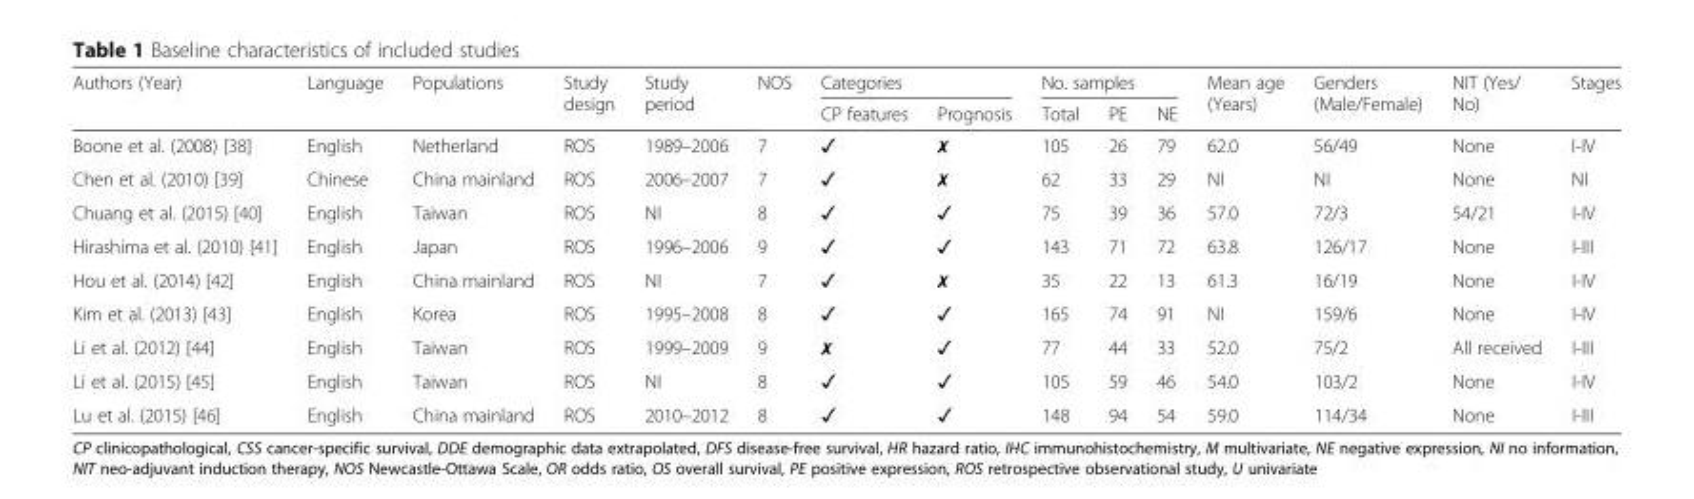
<table><thead><tr><td rowspan="2">Authors (Year)</td><td rowspan="2">Language</td><td rowspan="2">Populations</td><td rowspan="2">Study design</td><td rowspan="2">Study period</td><td rowspan="2">NOS</td><td colspan="2">Categories</td><td colspan="3">No. samples</td><td rowspan="2">Mean age (Years)</td><td rowspan="2">Genders (Male/Female)</td><td rowspan="2">NIT (Yes/ No)</td><td rowspan="2">Stages</td></tr><tr><td>CP features</td><td>Prognosis</td><td>Total</td><td>PE</td><td>NE</td></tr></thead><tbody><tr><td>Boone et al. (2008) [38]</td><td>English</td><td>Netherland</td><td>ROS</td><td>1989–2006</td><td>7</td><td>✓</td><td>✗</td><td>105</td><td>26</td><td>79</td><td>62.0</td><td>56/49</td><td>None</td><td>I-IV</td></tr><tr><td>Chen et al. (2010) [39]</td><td>Chinese</td><td>China mainland</td><td>ROS</td><td>2006–2007</td><td>7</td><td>✓</td><td>✗</td><td>62</td><td>33</td><td>29</td><td>NI</td><td>NI</td><td>None</td><td>NI</td></tr><tr><td>Chuang et al. (2015) [40]</td><td>English</td><td>Taiwan</td><td>ROS</td><td>NI</td><td>8</td><td>✓</td><td>✓</td><td>75</td><td>39</td><td>36</td><td>57.0</td><td>72/3</td><td>54/21</td><td>I-IV</td></tr><tr><td>Hirashima et al. (2010) [41]</td><td>English</td><td>Japan</td><td>ROS</td><td>1996–2006</td><td>9</td><td>✓</td><td>✓</td><td>143</td><td>71</td><td>72</td><td>63.8</td><td>126/17</td><td>None</td><td>I-III</td></tr><tr><td>Hou et al. (2014) [42]</td><td>English</td><td>China mainland</td><td>ROS</td><td>NI</td><td>7</td><td>✓</td><td>✗</td><td>35</td><td>22</td><td>13</td><td>61.3</td><td>16/19</td><td>None</td><td>I-IV</td></tr><tr><td>Kim et al. (2013) [43]</td><td>English</td><td>Korea</td><td>ROS</td><td>1995–2008</td><td>8</td><td>✓</td><td>✓</td><td>165</td><td>74</td><td>91</td><td>NI</td><td>159/6</td><td>None</td><td>I-IV</td></tr><tr><td>Li et al. (2012) [44]</td><td>English</td><td>Taiwan</td><td>ROS</td><td>1999–2009</td><td>9</td><td>✗</td><td>✓</td><td>77</td><td>44</td><td>33</td><td>52.0</td><td>75/2</td><td>All received</td><td>I-III</td></tr><tr><td>Li et al. (2015) [45]</td><td>English</td><td>Taiwan</td><td>ROS</td><td>NI</td><td>8</td><td>✓</td><td>✓</td><td>105</td><td>59</td><td>46</td><td>54.0</td><td>103/2</td><td>None</td><td>I-IV</td></tr><tr><td>Lu et al. (2015) [46]</td><td>English</td><td>China mainland</td><td>ROS</td><td>2010–2012</td><td>8</td><td>✓</td><td>✓</td><td>148</td><td>94</td><td>54</td><td>59.0</td><td>114/34</td><td>None</td><td>I-III</td></tr></tbody></table>